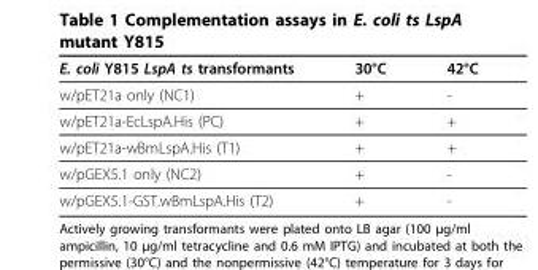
<table><thead><tr><td>E. coli Y815 LspA ts transformants</td><td>30°C</td><td>42°C</td></tr></thead><tbody><tr><td>w/pET21a only (NC1)</td><td>+</td><td>-</td></tr><tr><td>w/pET21a-EcLspA.His (PC)</td><td>+</td><td>+</td></tr><tr><td>w/pET21a-wBmLspA.His (T1)</td><td>+</td><td>+</td></tr><tr><td>w/pGEX5.1 only (NC2)</td><td>+</td><td>-</td></tr><tr><td>w/pGEX5.1-GST.wBmLspA.His (T2)</td><td>+</td><td>-</td></tr></tbody></table>